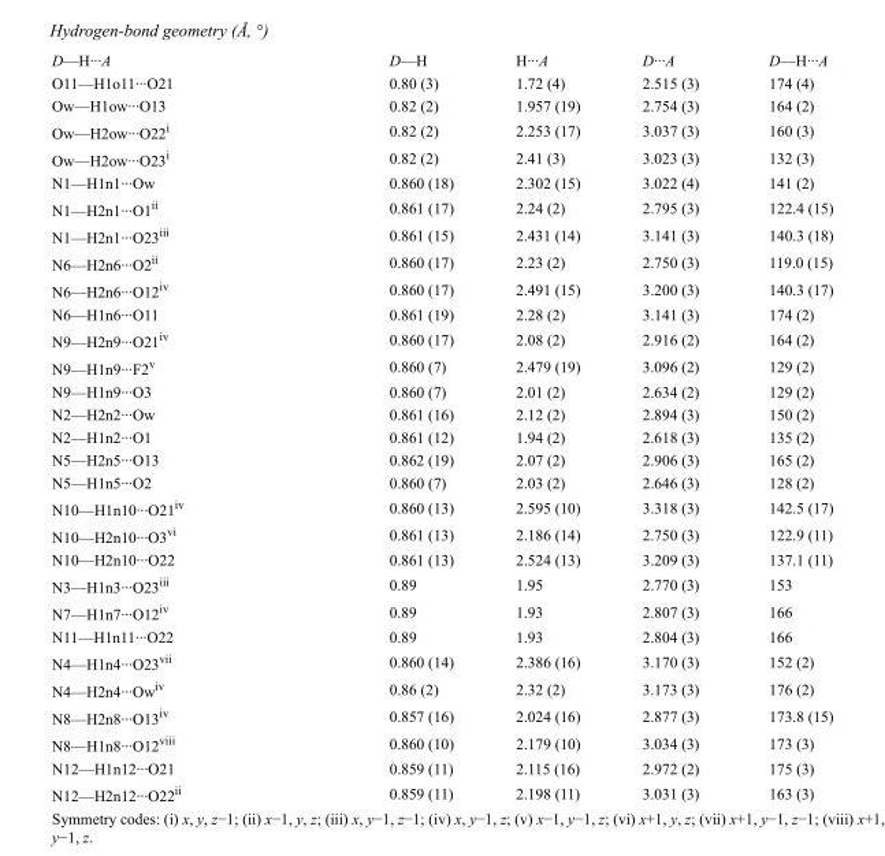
<table><tbody><tr><td>D—H···A</td><td>D—H</td><td>H···A</td><td>D···A</td><td>D—H···A</td></tr><tr><td>O11—H1o11···O21</td><td>0.80 (3)</td><td>1.72 (4)</td><td>2.515 (3)</td><td>174 (4)</td></tr><tr><td>Ow—H1ow···O13</td><td>0.82 (2)</td><td>1.957 (19)</td><td>2.754 (3)</td><td>164 (2)</td></tr><tr><td>Ow—H2ow···O22<sup>i</sup></td><td>0.82 (2)</td><td>2.253 (17)</td><td>3.037 (3)</td><td>160 (3)</td></tr><tr><td>Ow—H2ow···O23<sup>i</sup></td><td>0.82 (2)</td><td>2.41 (3)</td><td>3.023 (3)</td><td>132 (3)</td></tr><tr><td>N1—H1n1···Ow</td><td>0.860 (18)</td><td>2.302 (15)</td><td>3.022 (4)</td><td>141 (2)</td></tr><tr><td>N1—H2n1···O1<sup>ii</sup></td><td>0.861 (17)</td><td>2.24 (2)</td><td>2.795 (3)</td><td>122.4 (15)</td></tr><tr><td>N1—H2n1···O23<sup>iii</sup></td><td>0.861 (15)</td><td>2.431 (14)</td><td>3.141 (3)</td><td>140.3 (18)</td></tr><tr><td>N6—H2n6···O2<sup>ii</sup></td><td>0.860 (17)</td><td>2.23 (2)</td><td>2.750 (3)</td><td>119.0 (15)</td></tr><tr><td>N6—H2n6···O12<sup>iv</sup></td><td>0.860 (17)</td><td>2.491 (15)</td><td>3.200 (3)</td><td>140.3 (17)</td></tr><tr><td>N6—H1n6···O11</td><td>0.861 (19)</td><td>2.28 (2)</td><td>3.141 (3)</td><td>174 (2)</td></tr><tr><td>N9—H2n9···O21<sup>iv</sup></td><td>0.860 (17)</td><td>2.08 (2)</td><td>2.916 (2)</td><td>164 (2)</td></tr><tr><td>N9—H1n9···F2<sup>v</sup></td><td>0.860 (7)</td><td>2.479 (19)</td><td>3.096 (2)</td><td>129 (2)</td></tr><tr><td>N9—H1n9···O3</td><td>0.860 (7)</td><td>2.01 (2)</td><td>2.634 (2)</td><td>129 (2)</td></tr><tr><td>N2—H2n2···Ow</td><td>0.861 (16)</td><td>2.12 (2)</td><td>2.894 (3)</td><td>150 (2)</td></tr><tr><td>N2—H1n2···O1</td><td>0.861 (12)</td><td>1.94 (2)</td><td>2.618 (3)</td><td>135 (2)</td></tr><tr><td>N5—H2n5···O13</td><td>0.862 (19)</td><td>2.07 (2)</td><td>2.906 (3)</td><td>165 (2)</td></tr><tr><td>N5—H1n5···O2</td><td>0.860 (7)</td><td>2.03 (2)</td><td>2.646 (3)</td><td>128 (2)</td></tr><tr><td>N10—H1n10···O21<sup>iv</sup></td><td>0.860 (13)</td><td>2.595 (10)</td><td>3.318 (3)</td><td>142.5 (17)</td></tr><tr><td>N10—H2n10···O3<sup>vi</sup></td><td>0.861 (13)</td><td>2.186 (14)</td><td>2.750 (3)</td><td>122.9 (11)</td></tr><tr><td>N10—H2n10···O22</td><td>0.861 (13)</td><td>2.524 (13)</td><td>3.209 (3)</td><td>137.1 (11)</td></tr><tr><td>N3—H1n3···O23<sup>iii</sup></td><td>0.89</td><td>1.95</td><td>2.770 (3)</td><td>153</td></tr><tr><td>N7—H1n7···O12<sup>iv</sup></td><td>0.89</td><td>1.93</td><td>2.807 (3)</td><td>166</td></tr><tr><td>N11—H1n11···O22</td><td>0.89</td><td>1.93</td><td>2.804 (3)</td><td>166</td></tr><tr><td>N4—H1n4···O23<sup>vii</sup></td><td>0.860 (14)</td><td>2.386 (16)</td><td>3.170 (3)</td><td>152 (2)</td></tr><tr><td>N4—H2n4···Ow<sup>iv</sup></td><td>0.86 (2)</td><td>2.32 (2)</td><td>3.173 (3)</td><td>176 (2)</td></tr><tr><td>N8—H2n8···O13<sup>iv</sup></td><td>0.857 (16)</td><td>2.024 (16)</td><td>2.877 (3)</td><td>173.8 (15)</td></tr><tr><td>N8—H1n8···O12<sup>viii</sup></td><td>0.860 (10)</td><td>2.179 (10)</td><td>3.034 (3)</td><td>173 (3)</td></tr><tr><td>N12—H1n12···O21</td><td>0.859 (11)</td><td>2.115 (16)</td><td>2.972 (2)</td><td>175 (3)</td></tr><tr><td>N12—H2n12···O22<sup>ii</sup></td><td>0.859 (11)</td><td>2.198 (11)</td><td>3.031 (3)</td><td>163 (3)</td></tr></tbody></table>